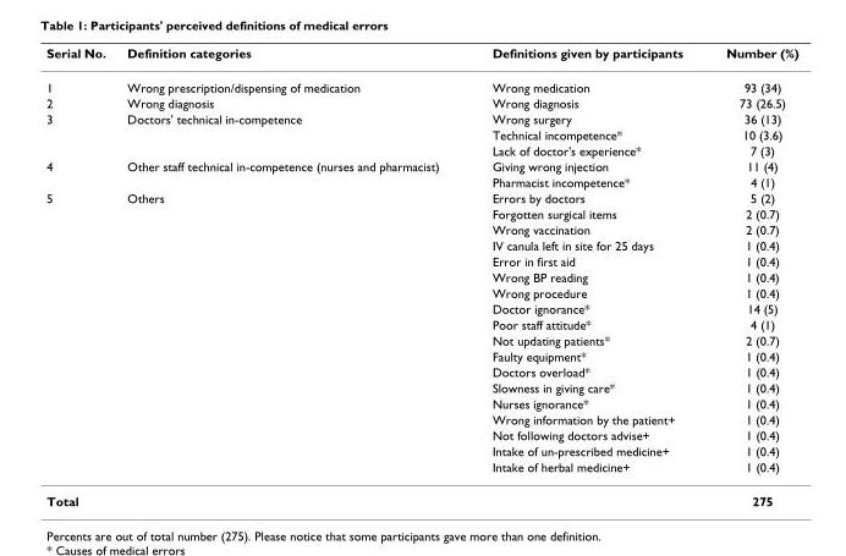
<table><thead><tr><td>Serial No.</td><td>Definition categories</td><td>Definitions given by participants</td><td>Number (%)</td></tr></thead><tbody><tr><td>1</td><td>Wrong prescription/dispensing of medication</td><td>Wrong medication</td><td>93 (34)</td></tr><tr><td>2</td><td>Wrong diagnosis</td><td>Wrong diagnosis</td><td>73 (26.5)</td></tr><tr><td rowspan="3">3</td><td>Doctors&#x27; technical in-competence</td><td>Wrong surgery</td><td>36 (13)</td></tr><tr><td></td><td>Technical incompetence*</td><td>10 (3.6)</td></tr><tr><td></td><td>Lack of doctor&#x27;s experience*</td><td>7 (3)</td></tr><tr><td rowspan="2">4</td><td>Other staff technical in-competence (nurses and pharmacist)</td><td>Giving wrong injection</td><td>11 (4)</td></tr><tr><td></td><td>Pharmacist incompetence*</td><td>4 (1)</td></tr><tr><td rowspan="18">5</td><td>Others</td><td>Errors by doctors</td><td>5 (2)</td></tr><tr><td></td><td>Forgotten surgical items</td><td>2 (0.7)</td></tr><tr><td></td><td>Wrong vaccination</td><td>2 (0.7)</td></tr><tr><td></td><td>IV canula left in site for 25 days</td><td>1 (0.4)</td></tr><tr><td></td><td>Error in first aid</td><td>1 (0.4)</td></tr><tr><td></td><td>Wrong BP reading</td><td>1 (0.4)</td></tr><tr><td></td><td>Wrong procedure</td><td>1 (0.4)</td></tr><tr><td></td><td>Doctor ignorance*</td><td>14 (5)</td></tr><tr><td></td><td>Poor staff attitude*</td><td>4 (1)</td></tr><tr><td></td><td>Not updating patients*</td><td>2 (0.7)</td></tr><tr><td></td><td>Faulty equipment*</td><td>1 (0.4)</td></tr><tr><td></td><td>Doctors overload*</td><td>1 (0.4)</td></tr><tr><td></td><td>Slowness in giving care*</td><td>1 (0.4)</td></tr><tr><td></td><td>Nurses ignorance*</td><td>1 (0.4)</td></tr><tr><td></td><td>Wrong information by the patient+</td><td>1 (0.4)</td></tr><tr><td></td><td>Not following doctors advise+</td><td>1 (0.4)</td></tr><tr><td></td><td>Intake of un-prescribed medicine+</td><td>1 (0.4)</td></tr><tr><td></td><td>Intake of herbal medicine+</td><td>1 (0.4)</td></tr><tr><td>Total</td><td></td><td></td><td>275</td></tr></tbody></table>